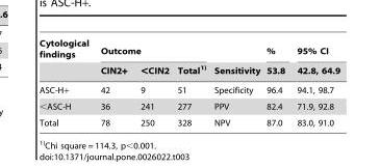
<table><thead><tr><td rowspan="2">Cytological findings</td><td colspan="3">Outcome</td><td rowspan="2">Sensitivity</td><td rowspan="2">% 53.8</td><td rowspan="2">95% CI 42.8, 64.9</td></tr><tr><td>CIN2+</td><td>&lt;CIN2</td><td>Total1)</td></tr></thead><tbody><tr><td>ASC-H+</td><td>42</td><td>9</td><td>51</td><td>Specificity</td><td>96.4</td><td>94.1, 98.7</td></tr><tr><td>&lt;ASC-H</td><td>36</td><td>241</td><td>277</td><td>PPV</td><td>82.4</td><td>71.9, 92.8</td></tr><tr><td>Total</td><td>78</td><td>250</td><td>328</td><td>NPV</td><td>87.0</td><td>83.0, 91.0</td></tr></tbody></table>